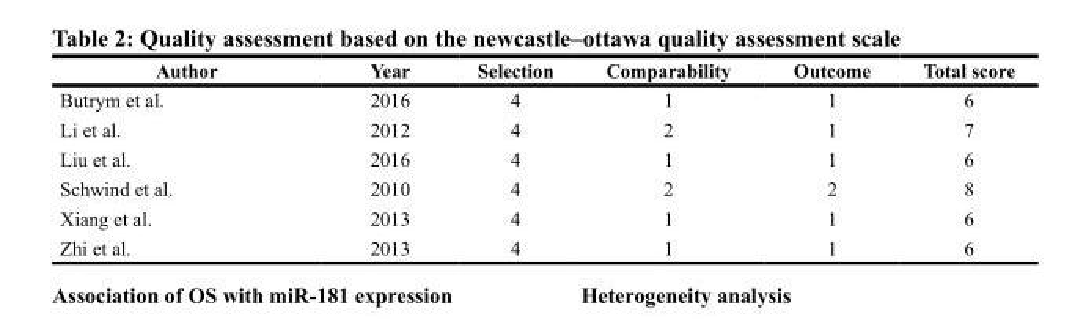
<table><thead><tr><td>Author</td><td>Year</td><td>Selection</td><td>Comparability</td><td>Outcome</td><td>Total score</td></tr></thead><tbody><tr><td>Butrym et al.</td><td>2016</td><td>4</td><td>1</td><td>1</td><td>6</td></tr><tr><td>Li et al.</td><td>2012</td><td>4</td><td>2</td><td>1</td><td>7</td></tr><tr><td>Liu et al.</td><td>2016</td><td>4</td><td>1</td><td>1</td><td>6</td></tr><tr><td>Schwind et al.</td><td>2010</td><td>4</td><td>2</td><td>2</td><td>8</td></tr><tr><td>Xiang et al.</td><td>2013</td><td>4</td><td>1</td><td>1</td><td>6</td></tr><tr><td>Zhi et al.</td><td>2013</td><td>4</td><td>1</td><td>1</td><td>6</td></tr></tbody></table>